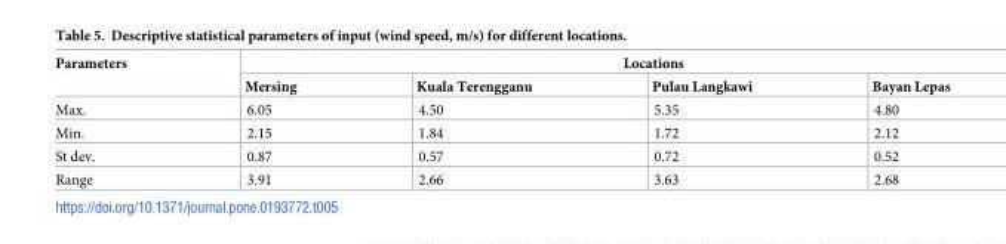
<table><thead><tr><td rowspan="2">Parameters</td><td colspan="4">Locations</td></tr><tr><td>Mersing</td><td>Kuala Terengganu</td><td>Pulau Langkawi</td><td>Bayan Lepas</td></tr></thead><tbody><tr><td>Max.</td><td>6.05</td><td>4.50</td><td>5.35</td><td>4.80</td></tr><tr><td>Min.</td><td>2.15</td><td>1.84</td><td>1.72</td><td>2.12</td></tr><tr><td>St dev.</td><td>0.87</td><td>0.57</td><td>0.72</td><td>0.52</td></tr><tr><td>Range</td><td>3.91</td><td>2.66</td><td>3.63</td><td>2.68</td></tr></tbody></table>